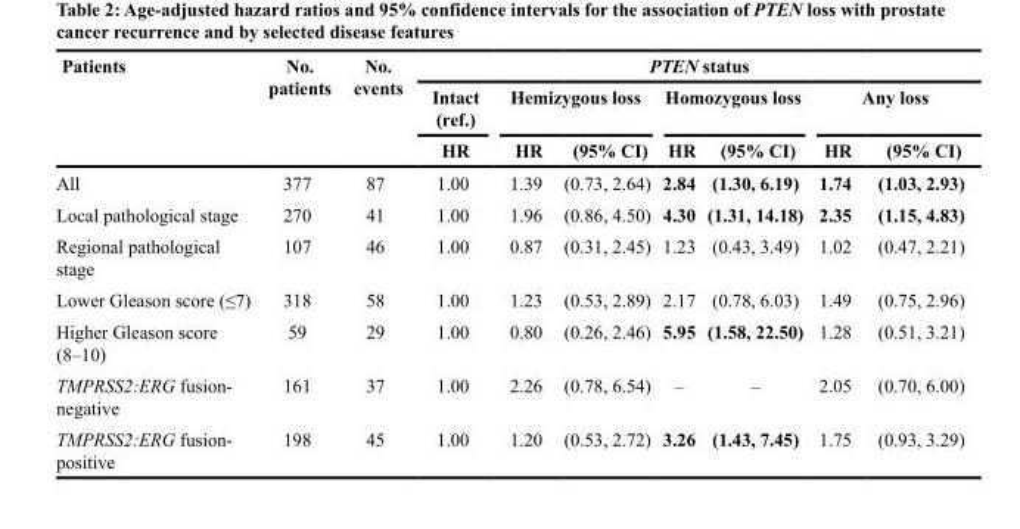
<table><thead><tr><td rowspan="3">Patients</td><td rowspan="3">No. patients</td><td rowspan="3">No. events</td><td colspan="7">PTEN status</td></tr><tr><td rowspan="2">Intact (ref.) HR</td><td colspan="2">Hemizygous loss</td><td colspan="2">Homozygous loss</td><td colspan="2">Any loss</td></tr><tr><td>HR</td><td>(95% CI)</td><td>HR</td><td>(95% CI)</td><td>HR</td><td>(95% CI)</td></tr></thead><tbody><tr><td>All</td><td>377</td><td>87</td><td>1.00</td><td>1.39</td><td>(0.73, 2.64)</td><td>2.84</td><td>(1.30, 6.19)</td><td>1.74</td><td>(1.03, 2.93)</td></tr><tr><td>Local pathological stage</td><td>270</td><td>41</td><td>1.00</td><td>1.96</td><td>(0.86, 4.50)</td><td>4.30</td><td>(1.31, 14.18)</td><td>2.35</td><td>(1.15, 4.83)</td></tr><tr><td>Regional pathological stage</td><td>107</td><td>46</td><td>1.00</td><td>0.87</td><td>(0.31, 2.45)</td><td>1.23</td><td>(0.43, 3.49)</td><td>1.02</td><td>(0.47, 2.21)</td></tr><tr><td>Lower Gleason score (≤7)</td><td>318</td><td>58</td><td>1.00</td><td>1.23</td><td>(0.53, 2.89)</td><td>2.17</td><td>(0.78, 6.03)</td><td>1.49</td><td>(0.75, 2.96)</td></tr><tr><td>Higher Gleason score (8–10)</td><td>59</td><td>29</td><td>1.00</td><td>0.80</td><td>(0.26, 2.46)</td><td>5.95</td><td>(1.58, 22.50)</td><td>1.28</td><td>(0.51, 3.21)</td></tr><tr><td>TMPRSS2:ERG fusion- negative</td><td>161</td><td>37</td><td>1.00</td><td>2.26</td><td>(0.78, 6.54)</td><td>–</td><td>–</td><td>2.05</td><td>(0.70, 6.00)</td></tr><tr><td>TMPRSS2:ERG fusion- positive</td><td>198</td><td>45</td><td>1.00</td><td>1.20</td><td>(0.53, 2.72)</td><td>3.26</td><td>(1.43, 7.45)</td><td>1.75</td><td>(0.93, 3.29)</td></tr></tbody></table>